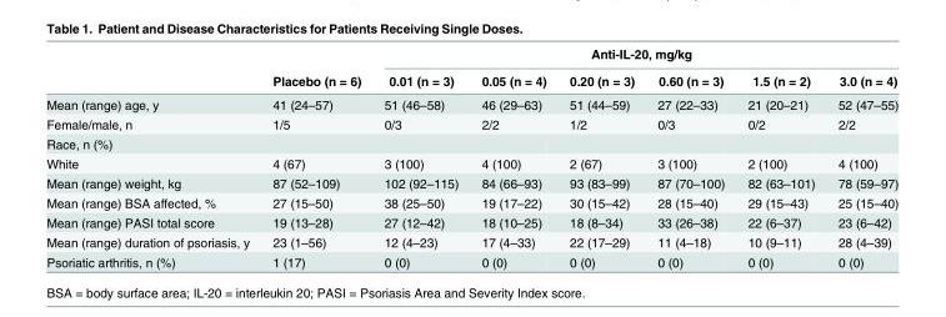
<table><thead><tr><td rowspan="2"></td><td rowspan="2">Placebo (n = 6)</td><td colspan="6">Anti-IL-20, mg/kg</td></tr><tr><td>0.01 (n = 3)</td><td>0.05 (n = 4)</td><td>0.20 (n = 3)</td><td>0.60 (n = 3)</td><td>1.5 (n = 2)</td><td>3.0 (n = 4)</td></tr></thead><tbody><tr><td>Mean (range) age, y</td><td>41 (24–57)</td><td>51 (46–58)</td><td>46 (29–63)</td><td>51 (44–59)</td><td>27 (22–33)</td><td>21 (20–21)</td><td>52 (47–55)</td></tr><tr><td>Female/male, n</td><td>1/5</td><td>0/3</td><td>2/2</td><td>1/2</td><td>0/3</td><td>0/2</td><td>2/2</td></tr><tr><td colspan="8">Race, n (%)</td></tr><tr><td>White</td><td>4 (67)</td><td>3 (100)</td><td>4 (100)</td><td>2 (67)</td><td>3 (100)</td><td>2 (100)</td><td>4 (100)</td></tr><tr><td>Mean (range) weight, kg</td><td>87 (52–109)</td><td>102 (92–115)</td><td>84 (66–93)</td><td>93 (83–99)</td><td>87 (70–100)</td><td>82 (63–101)</td><td>78 (59–97)</td></tr><tr><td>Mean (range) BSA affected, %</td><td>27 (15–50)</td><td>38 (25–50)</td><td>19 (17–22)</td><td>30 (15–42)</td><td>28 (15–40)</td><td>29 (15–43)</td><td>25 (15–40)</td></tr><tr><td>Mean (range) PASI total score</td><td>19 (13–28)</td><td>27 (12–42)</td><td>18 (10–25)</td><td>18 (8–34)</td><td>33 (26–38)</td><td>22 (6–37)</td><td>23 (6–42)</td></tr><tr><td>Mean (range) duration of psoriasis, y</td><td>23 (1–56)</td><td>12 (4–23)</td><td>17 (4–33)</td><td>22 (17–29)</td><td>11 (4–18)</td><td>10 (9–11)</td><td>28 (4–39)</td></tr><tr><td>Psoriatic arthritis, n (%)</td><td>1 (17)</td><td>0 (0)</td><td>0 (0)</td><td>0 (0)</td><td>0 (0)</td><td>0 (0)</td><td>0 (0)</td></tr></tbody></table>